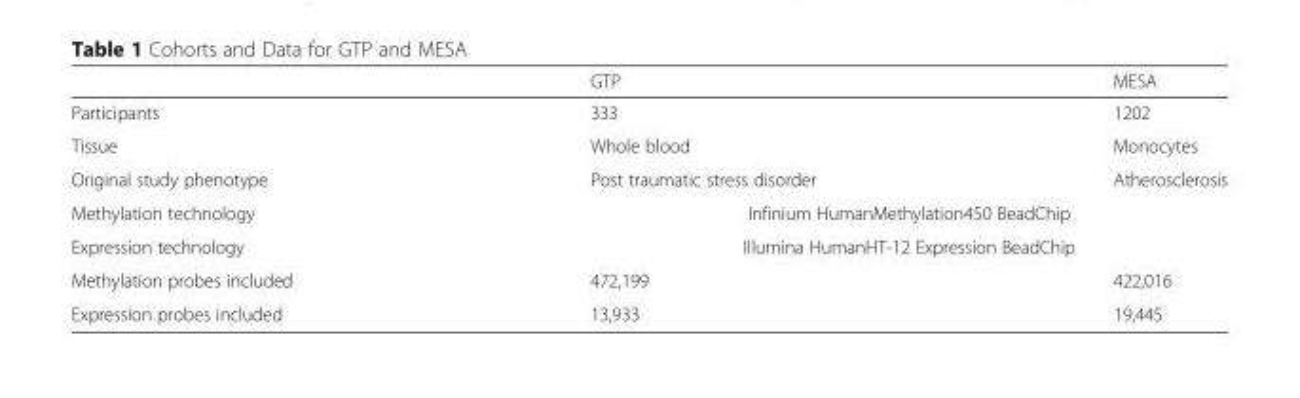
<table><thead><tr><td></td><td>GTP</td><td>MESA</td></tr></thead><tbody><tr><td>Participants</td><td>333</td><td>1202</td></tr><tr><td>Tissue</td><td>Whole blood</td><td>Monocytes</td></tr><tr><td>Original study phenotype</td><td>Post traumatic stress disorder</td><td>Atherosclerosis</td></tr><tr><td>Methylation technology</td><td colspan="2">Infinium HumanMethylation450 BeadChip</td></tr><tr><td>Expression technology</td><td colspan="2">Illumina HumanHT-12 Expression BeadChip</td></tr><tr><td>Methylation probes included</td><td>472,199</td><td>422,016</td></tr><tr><td>Expression probes included</td><td>13,933</td><td>19,445</td></tr></tbody></table>